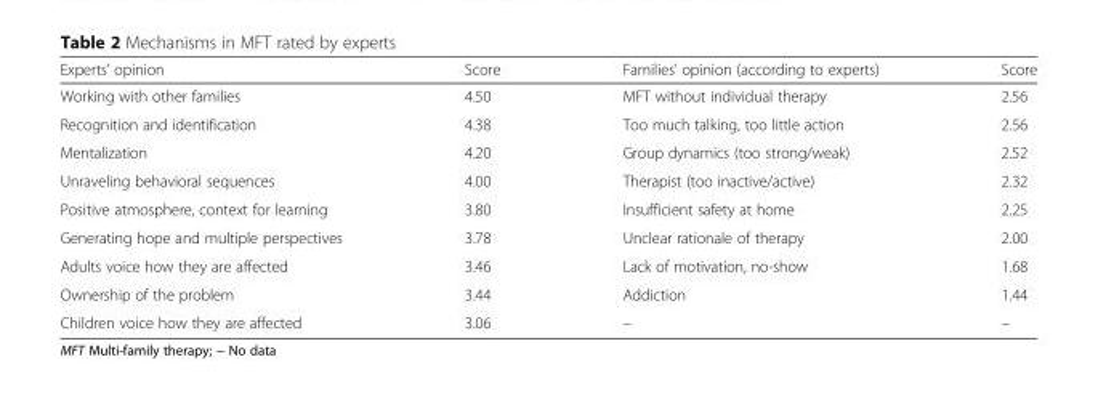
<table><thead><tr><td>Experts’ opinion</td><td>Score</td><td>Families’ opinion (according to experts)</td><td>Score</td></tr></thead><tbody><tr><td>Working with other families</td><td>4.50</td><td>MFT without individual therapy</td><td>2.56</td></tr><tr><td>Recognition and identification</td><td>4.38</td><td>Too much talking, too little action</td><td>2.56</td></tr><tr><td>Mentalization</td><td>4.20</td><td>Group dynamics (too strong/weak)</td><td>2.52</td></tr><tr><td>Unraveling behavioral sequences</td><td>4.00</td><td>Therapist (too inactive/active)</td><td>2.32</td></tr><tr><td>Positive atmosphere, context for learning</td><td>3.80</td><td>Insufficient safety at home</td><td>2.25</td></tr><tr><td>Generating hope and multiple perspectives</td><td>3.78</td><td>Unclear rationale of therapy</td><td>2.00</td></tr><tr><td>Adults voice how they are affected</td><td>3.46</td><td>Lack of motivation, no-show</td><td>1.68</td></tr><tr><td>Ownership of the problem</td><td>3.44</td><td>Addiction</td><td>1.44</td></tr><tr><td>Children voice how they are affected</td><td>3.06</td><td>–</td><td>–</td></tr></tbody></table>